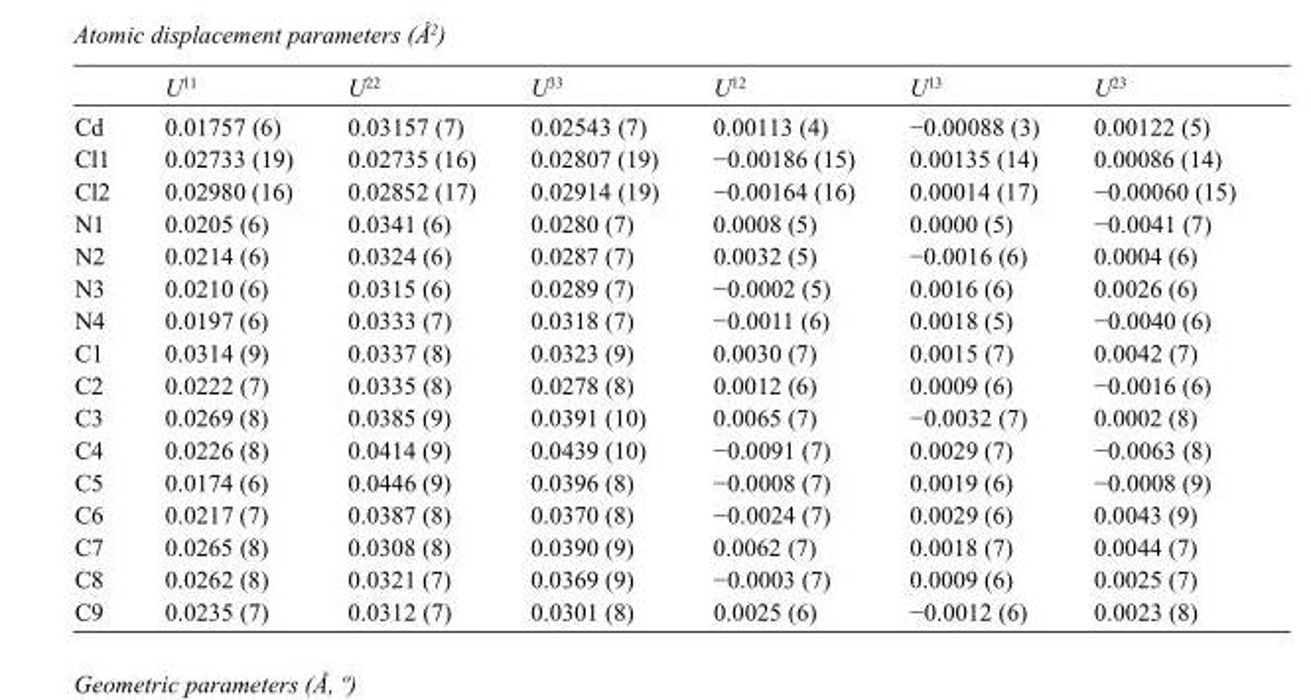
<table><thead><tr><td></td><td>U<sup>11</sup></td><td>U<sup>22</sup></td><td>U<sup>33</sup></td><td>U<sup>12</sup></td><td>U<sup>13</sup></td><td>U<sup>23</sup></td></tr></thead><tbody><tr><td>Cd</td><td>0.01757 (6)</td><td>0.03157 (7)</td><td>0.02543 (7)</td><td>0.00113 (4)</td><td>−0.00088 (3)</td><td>0.00122 (5)</td></tr><tr><td>Cl1</td><td>0.02733 (19)</td><td>0.02735 (16)</td><td>0.02807 (19)</td><td>−0.00186 (15)</td><td>0.00135 (14)</td><td>0.00086 (14)</td></tr><tr><td>Cl2</td><td>0.02980 (16)</td><td>0.02852 (17)</td><td>0.02914 (19)</td><td>−0.00164 (16)</td><td>0.00014 (17)</td><td>−0.00060 (15)</td></tr><tr><td>N1</td><td>0.0205 (6)</td><td>0.0341 (6)</td><td>0.0280 (7)</td><td>0.0008 (5)</td><td>0.0000 (5)</td><td>−0.0041 (7)</td></tr><tr><td>N2</td><td>0.0214 (6)</td><td>0.0324 (6)</td><td>0.0287 (7)</td><td>0.0032 (5)</td><td>−0.0016 (6)</td><td>0.0004 (6)</td></tr><tr><td>N3</td><td>0.0210 (6)</td><td>0.0315 (6)</td><td>0.0289 (7)</td><td>−0.0002 (5)</td><td>0.0016 (6)</td><td>0.0026 (6)</td></tr><tr><td>N4</td><td>0.0197 (6)</td><td>0.0333 (7)</td><td>0.0318 (7)</td><td>−0.0011 (6)</td><td>0.0018 (5)</td><td>−0.0040 (6)</td></tr><tr><td>C1</td><td>0.0314 (9)</td><td>0.0337 (8)</td><td>0.0323 (9)</td><td>0.0030 (7)</td><td>0.0015 (7)</td><td>0.0042 (7)</td></tr><tr><td>C2</td><td>0.0222 (7)</td><td>0.0335 (8)</td><td>0.0278 (8)</td><td>0.0012 (6)</td><td>0.0009 (6)</td><td>−0.0016 (6)</td></tr><tr><td>C3</td><td>0.0269 (8)</td><td>0.0385 (9)</td><td>0.0391 (10)</td><td>0.0065 (7)</td><td>−0.0032 (7)</td><td>0.0002 (8)</td></tr><tr><td>C4</td><td>0.0226 (8)</td><td>0.0414 (9)</td><td>0.0439 (10)</td><td>−0.0091 (7)</td><td>0.0029 (7)</td><td>−0.0063 (8)</td></tr><tr><td>C5</td><td>0.0174 (6)</td><td>0.0446 (9)</td><td>0.0396 (8)</td><td>−0.0008 (7)</td><td>0.0019 (6)</td><td>−0.0008 (9)</td></tr><tr><td>C6</td><td>0.0217 (7)</td><td>0.0387 (8)</td><td>0.0370 (8)</td><td>−0.0024 (7)</td><td>0.0029 (6)</td><td>0.0043 (9)</td></tr><tr><td>C7</td><td>0.0265 (8)</td><td>0.0308 (8)</td><td>0.0390 (9)</td><td>0.0062 (7)</td><td>0.0018 (7)</td><td>0.0044 (7)</td></tr><tr><td>C8</td><td>0.0262 (8)</td><td>0.0321 (7)</td><td>0.0369 (9)</td><td>−0.0003 (7)</td><td>0.0009 (6)</td><td>0.0025 (7)</td></tr><tr><td>C9</td><td>0.0235 (7)</td><td>0.0312 (7)</td><td>0.0301 (8)</td><td>0.0025 (6)</td><td>−0.0012 (6)</td><td>0.0023 (8)</td></tr></tbody></table>